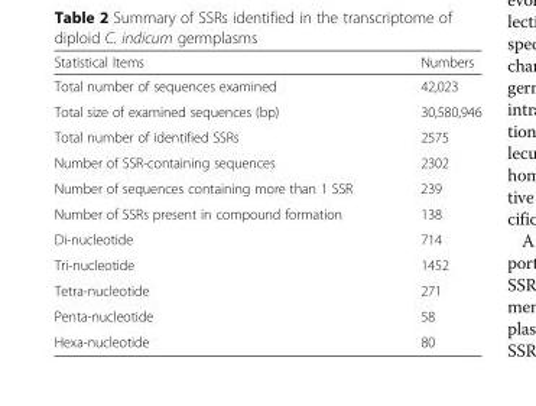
<table><thead><tr><td>Statistical Items</td><td>Numbers</td></tr></thead><tbody><tr><td>Total number of sequences examined</td><td>42,023</td></tr><tr><td>Total size of examined sequences (bp)</td><td>30,580,946</td></tr><tr><td>Total number of identified SSRs</td><td>2575</td></tr><tr><td>Number of SSR-containing sequences</td><td>2302</td></tr><tr><td>Number of sequences containing more than 1 SSR</td><td>239</td></tr><tr><td>Number of SSRs present in compound formation</td><td>138</td></tr><tr><td>Di-nucleotide</td><td>714</td></tr><tr><td>Tri-nucleotide</td><td>1452</td></tr><tr><td>Tetra-nucleotide</td><td>271</td></tr><tr><td>Penta-nucleotide</td><td>58</td></tr><tr><td>Hexa-nucleotide</td><td>80</td></tr></tbody></table>